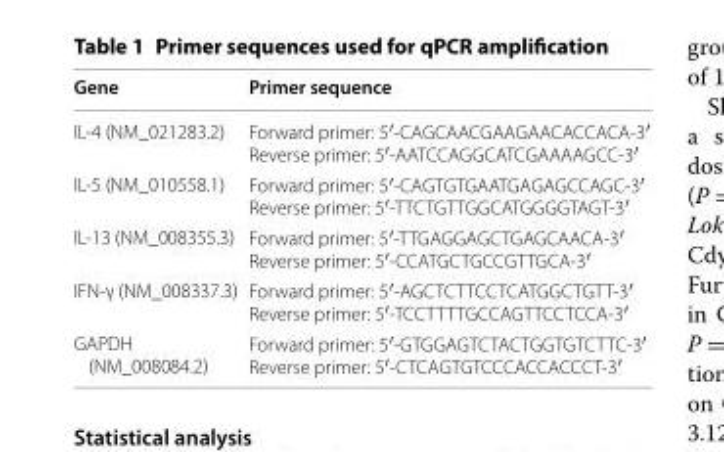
<table><thead><tr><td>Gene</td><td>Primer sequence</td></tr></thead><tbody><tr><td>IL-4 (NM_021283.2)</td><td>Forward primer: 5′-CAGCAACGAAGAACACCACA-3′ Reverse primer: 5′-AATCCAGGCATCGAAAAGCC-3′</td></tr><tr><td>IL-5 (NM_010558.1)</td><td>Forward primer: 5′-CAGTGTGAATGAGAGCCAGC-3′ Reverse primer: 5′-TTCTGTTGGCATGGGGTAGT-3′</td></tr><tr><td>IL-13 (NM_008355.3)</td><td>Forward primer: 5′-TTGAGGAGCTGAGCAACA-3′ Reverse primer: 5′-CCATGCTGCCGTTGCA-3′</td></tr><tr><td>IFN-γ (NM_008337.3)</td><td>Forward primer: 5′-AGCTCTTCCTCATGGCTGTT-3′ Reverse primer: 5′-TCCTTTTGCCAGTTCCTCCA-3′</td></tr><tr><td>GAPDH (NM_008084.2)</td><td>Forward primer: 5′-GTGGAGTCTACTGGTGTCTTC-3′ Reverse primer: 5′-CTCAGTGTCCCACCACCCT-3′</td></tr></tbody></table>